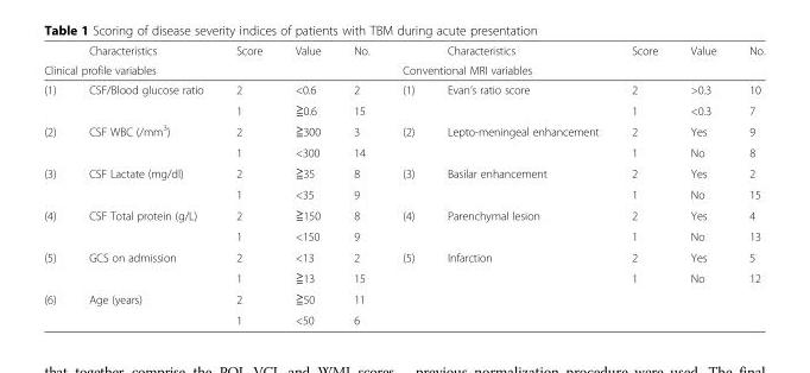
<table><thead><tr><td></td><td>Characteristics</td><td>Score</td><td>Value</td><td>No.</td><td></td><td>Characteristics</td><td>Score</td><td>Value</td><td>No.</td></tr><tr><td colspan="5">Clinical profile variables</td><td colspan="5">Conventional MRI variables</td></tr></thead><tbody><tr><td rowspan="2">(1)</td><td>CSF/Blood glucose ratio</td><td>2</td><td>&lt;0.6</td><td>2</td><td>(1)</td><td>Evan’s ratio score</td><td>2</td><td>&gt;0.3</td><td>10</td></tr><tr><td></td><td>1</td><td>≧0.6</td><td>15</td><td></td><td></td><td>1</td><td>&lt;0.3</td><td>7</td></tr><tr><td rowspan="2">(2)</td><td>CSF WBC (/mm<sup>3</sup>)</td><td>2</td><td>≧300</td><td>3</td><td>(2)</td><td>Lepto-meningeal enhancement</td><td>2</td><td>Yes</td><td>9</td></tr><tr><td></td><td>1</td><td>&lt;300</td><td>14</td><td></td><td></td><td>1</td><td>No</td><td>8</td></tr><tr><td rowspan="2">(3)</td><td>CSF Lactate (mg/dl)</td><td>2</td><td>≧35</td><td>8</td><td>(3)</td><td>Basilar enhancement</td><td>2</td><td>Yes</td><td>2</td></tr><tr><td></td><td>1</td><td>&lt;35</td><td>9</td><td></td><td></td><td>1</td><td>No</td><td>15</td></tr><tr><td rowspan="2">(4)</td><td>CSF Total protein (g/L)</td><td>2</td><td>≧150</td><td>8</td><td>(4)</td><td>Parenchymal lesion</td><td>2</td><td>Yes</td><td>4</td></tr><tr><td></td><td>1</td><td>&lt;150</td><td>9</td><td></td><td></td><td>1</td><td>No</td><td>13</td></tr><tr><td rowspan="2">(5)</td><td>GCS on admission</td><td>2</td><td>&lt;13</td><td>2</td><td>(5)</td><td>Infarction</td><td>2</td><td>Yes</td><td>5</td></tr><tr><td></td><td>1</td><td>≧13</td><td>15</td><td></td><td></td><td>1</td><td>No</td><td>12</td></tr><tr><td rowspan="2">(6)</td><td>Age (years)</td><td>2</td><td>≧50</td><td>11</td><td></td><td></td><td></td><td></td><td></td></tr><tr><td></td><td>1</td><td>&lt;50</td><td>6</td><td></td><td></td><td></td><td></td><td></td></tr></tbody></table>